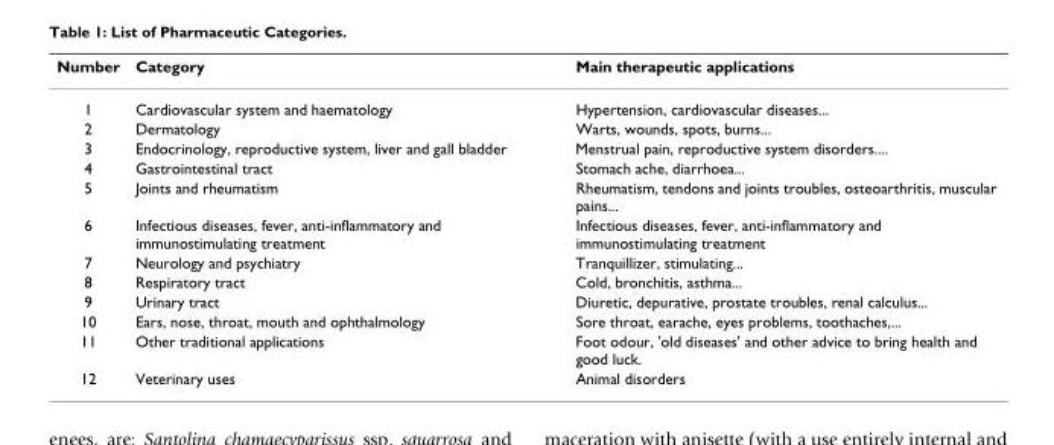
<table><thead><tr><td>Number</td><td>Category</td><td>Main therapeutic applications</td></tr></thead><tbody><tr><td>1</td><td>Cardiovascular system and haematology</td><td>Hypertension, cardiovascular diseases...</td></tr><tr><td>2</td><td>Dermatology</td><td>Warts, wounds, spots, burns...</td></tr><tr><td>3</td><td>Endocrinology, reproductive system, liver and gall bladder</td><td>Menstrual pain, reproductive system disorders....</td></tr><tr><td>4</td><td>Gastrointestinal tract</td><td>Stomach ache, diarrhoea...</td></tr><tr><td>5</td><td>Joints and rheumatism</td><td>Rheumatism, tendons and joints troubles, osteoarthritis, muscular pains...</td></tr><tr><td>6</td><td>Infectious diseases, fever, anti-inflammatory and immunostimulating treatment</td><td>Infectious diseases, fever, anti-inflammatory and immunostimulating treatment</td></tr><tr><td>7</td><td>Neurology and psychiatry</td><td>Tranquillizer, stimulating...</td></tr><tr><td>8</td><td>Respiratory tract</td><td>Cold, bronchitis, asthma...</td></tr><tr><td>9</td><td>Urinary tract</td><td>Diuretic, depurative, prostate troubles, renal calculus...</td></tr><tr><td>10</td><td>Ears, nose, throat, mouth and ophthalmology</td><td>Sore throat, earache, eyes problems, toothaches,...</td></tr><tr><td>11</td><td>Other traditional applications</td><td>Foot odour, &#x27;old diseases&#x27; and other advice to bring health and good luck.</td></tr><tr><td>12</td><td>Veterinary uses</td><td>Animal disorders</td></tr></tbody></table>